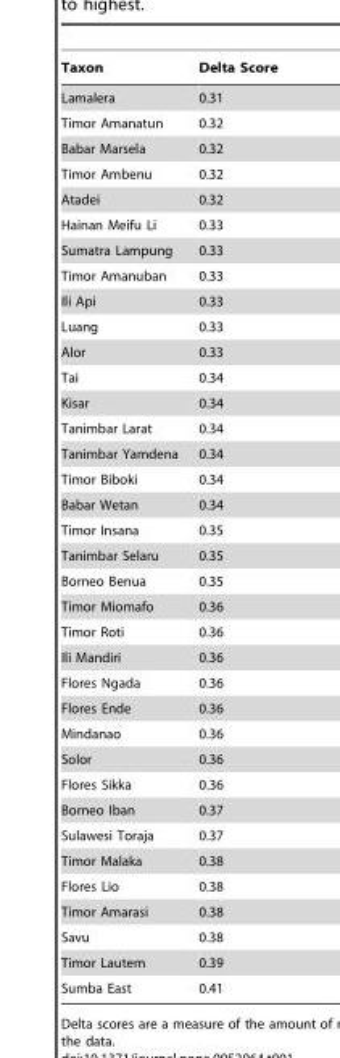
<table><thead><tr><td>Taxon</td><td>Delta Score</td></tr></thead><tbody><tr><td>Lamalera</td><td>0.31</td></tr><tr><td>Timor Amanatun</td><td>0.32</td></tr><tr><td>Babar Marsela</td><td>0.32</td></tr><tr><td>Timor Ambenu</td><td>0.32</td></tr><tr><td>Atadei</td><td>0.32</td></tr><tr><td>Hainan Meifu Li</td><td>0.33</td></tr><tr><td>Sumatra Lampung</td><td>0.33</td></tr><tr><td>Timor Amanuban</td><td>0.33</td></tr><tr><td>Ili Api</td><td>0.33</td></tr><tr><td>Luang</td><td>0.33</td></tr><tr><td>Alor</td><td>0.33</td></tr><tr><td>Tai</td><td>0.34</td></tr><tr><td>Kisar</td><td>0.34</td></tr><tr><td>Tanimbar Larat</td><td>0.34</td></tr><tr><td>Tanimbar Yamdena</td><td>0.34</td></tr><tr><td>Timor Biboki</td><td>0.34</td></tr><tr><td>Babar Wetan</td><td>0.34</td></tr><tr><td>Timor Insana</td><td>0.35</td></tr><tr><td>Tanimbar Selaru</td><td>0.35</td></tr><tr><td>Borneo Benua</td><td>0.35</td></tr><tr><td>Timor Miomafo</td><td>0.36</td></tr><tr><td>Timor Roti</td><td>0.36</td></tr><tr><td>Ili Mandiri</td><td>0.36</td></tr><tr><td>Flores Ngada</td><td>0.36</td></tr><tr><td>Flores Ende</td><td>0.36</td></tr><tr><td>Mindanao</td><td>0.36</td></tr><tr><td>Solor</td><td>0.36</td></tr><tr><td>Flores Sikka</td><td>0.36</td></tr><tr><td>Borneo Iban</td><td>0.37</td></tr><tr><td>Sulawesi Toraja</td><td>0.37</td></tr><tr><td>Timor Malaka</td><td>0.38</td></tr><tr><td>Flores Lio</td><td>0.38</td></tr><tr><td>Timor Amarasi</td><td>0.38</td></tr><tr><td>Savu</td><td>0.38</td></tr><tr><td>Timor Lautem</td><td>0.39</td></tr><tr><td>Sumba East</td><td>0.41</td></tr></tbody></table>